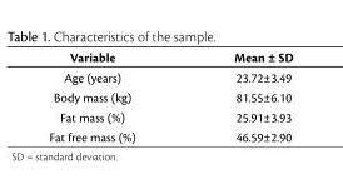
<table><thead><tr><td>Variable</td><td>Mean ± SD</td></tr></thead><tbody><tr><td>Age (years)</td><td>23.72±3.49</td></tr><tr><td>Body mass (kg)</td><td>81.55±6.10</td></tr><tr><td>Fat mass (%)</td><td>25.91±3.93</td></tr><tr><td>Fat free mass (%)</td><td>46.59±2.90</td></tr></tbody></table>